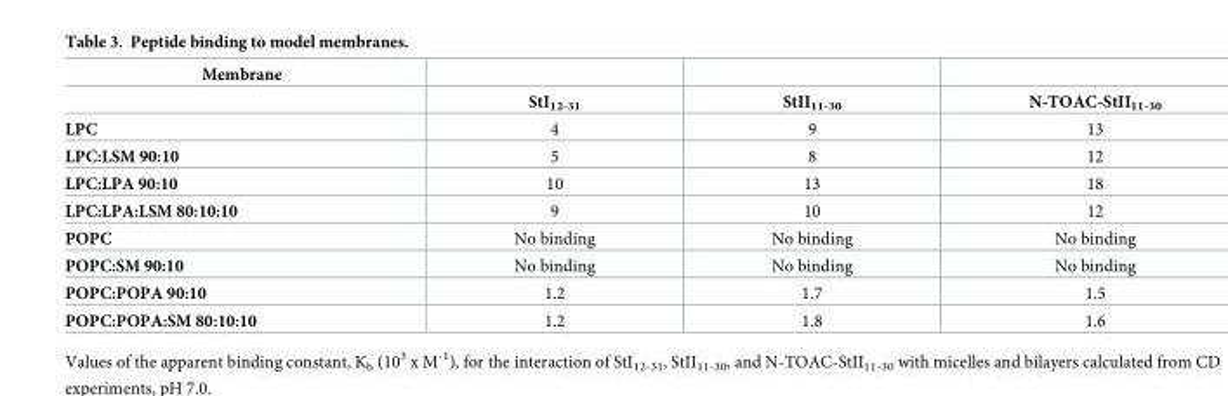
<table><thead><tr><td rowspan="2">Membrane</td><td rowspan="2">StI<sub>12-31</sub></td><td rowspan="2">StII<sub>11-30</sub></td><td rowspan="2">N-TOAC-StII<sub>11-30</sub></td></tr><tr></tr></thead><tbody><tr><td>LPC</td><td>4</td><td>9</td><td>13</td></tr><tr><td>LPC:LSM 90:10</td><td>5</td><td>8</td><td>12</td></tr><tr><td>LPC:LPA 90:10</td><td>10</td><td>13</td><td>18</td></tr><tr><td>LPC:LPA:LSM 80:10:10</td><td>9</td><td>10</td><td>12</td></tr><tr><td>POPC</td><td>No binding</td><td>No binding</td><td>No binding</td></tr><tr><td>POPC:SM 90:10</td><td>No binding</td><td>No binding</td><td>No binding</td></tr><tr><td>POPC:POPA 90:10</td><td>1.2</td><td>1.7</td><td>1.5</td></tr><tr><td>POPC:POPA:SM 80:10:10</td><td>1.2</td><td>1.8</td><td>1.6</td></tr></tbody></table>